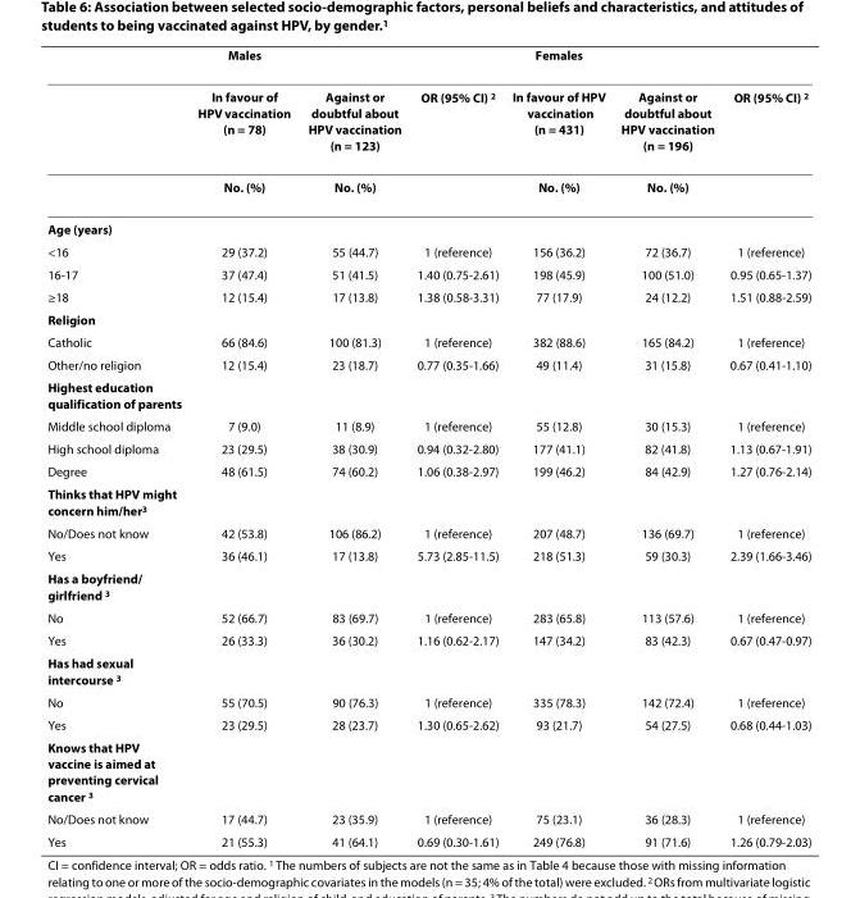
<table><thead><tr><td></td><td>Males</td><td></td><td></td><td>Females</td><td></td><td></td></tr></thead><tbody><tr><td></td><td>In favour of HPV vaccination (n = 78)</td><td>Against or doubtful about HPV vaccination (n = 123)</td><td>OR (95% CI) <sup>2</sup></td><td>In favour of HPV vaccination (n = 431)</td><td>Against or doubtful about HPV vaccination (n = 196)</td><td>OR (95% CI) <sup>2</sup></td></tr><tr><td></td><td>No. (%)</td><td>No. (%)</td><td></td><td>No. (%)</td><td>No. (%)</td><td></td></tr><tr><td colspan="7">Age (years)</td></tr><tr><td>&lt;16</td><td>29 (37.2)</td><td>55 (44.7)</td><td>1 (reference)</td><td>156 (36.2)</td><td>72 (36.7)</td><td>1 (reference)</td></tr><tr><td>16-17</td><td>37 (47.4)</td><td>51 (41.5)</td><td>1.40 (0.75-2.61)</td><td>198 (45.9)</td><td>100 (51.0)</td><td>0.95 (0.65-1.37)</td></tr><tr><td>≥18</td><td>12 (15.4)</td><td>17 (13.8)</td><td>1.38 (0.58-3.31)</td><td>77 (17.9)</td><td>24 (12.2)</td><td>1.51 (0.88-2.59)</td></tr><tr><td colspan="7">Religion</td></tr><tr><td>Catholic</td><td>66 (84.6)</td><td>100 (81.3)</td><td>1 (reference)</td><td>382 (88.6)</td><td>165 (84.2)</td><td>1 (reference)</td></tr><tr><td>Other/no religion</td><td>12 (15.4)</td><td>23 (18.7)</td><td>0.77 (0.35-1.66)</td><td>49 (11.4)</td><td>31 (15.8)</td><td>0.67 (0.41-1.10)</td></tr><tr><td colspan="7">Highest education qualification of parents</td></tr><tr><td>Middle school diploma</td><td>7 (9.0)</td><td>11 (8.9)</td><td>1 (reference)</td><td>55 (12.8)</td><td>30 (15.3)</td><td>1 (reference)</td></tr><tr><td>High school diploma</td><td>23 (29.5)</td><td>38 (30.9)</td><td>0.94 (0.32-2.80)</td><td>177 (41.1)</td><td>82 (41.8)</td><td>1.13 (0.67-1.91)</td></tr><tr><td>Degree</td><td>48 (61.5)</td><td>74 (60.2)</td><td>1.06 (0.38-2.97)</td><td>199 (46.2)</td><td>84 (42.9)</td><td>1.27 (0.76-2.14)</td></tr><tr><td colspan="7">Thinks that HPV might concern him/her<sup>3</sup></td></tr><tr><td>No/Does not know</td><td>42 (53.8)</td><td>106 (86.2)</td><td>1 (reference)</td><td>207 (48.7)</td><td>136 (69.7)</td><td>1 (reference)</td></tr><tr><td>Yes</td><td>36 (46.1)</td><td>17 (13.8)</td><td>5.73 (2.85-11.5)</td><td>218 (51.3)</td><td>59 (30.3)</td><td>2.39 (1.66-3.46)</td></tr><tr><td colspan="7">Has a boyfriend/ girlfriend <sup>3</sup></td></tr><tr><td>No</td><td>52 (66.7)</td><td>83 (69.7)</td><td>1 (reference)</td><td>283 (65.8)</td><td>113 (57.6)</td><td>1 (reference)</td></tr><tr><td>Yes</td><td>26 (33.3)</td><td>36 (30.2)</td><td>1.16 (0.62-2.17)</td><td>147 (34.2)</td><td>83 (42.3)</td><td>0.67 (0.47-0.97)</td></tr><tr><td colspan="7">Has had sexual intercourse <sup>3</sup></td></tr><tr><td>No</td><td>55 (70.5)</td><td>90 (76.3)</td><td>1 (reference)</td><td>335 (78.3)</td><td>142 (72.4)</td><td>1 (reference)</td></tr><tr><td>Yes</td><td>23 (29.5)</td><td>28 (23.7)</td><td>1.30 (0.65-2.62)</td><td>93 (21.7)</td><td>54 (27.5)</td><td>0.68 (0.44-1.03)</td></tr><tr><td colspan="7">Knows that HPV vaccine is aimed at preventing cervical cancer <sup>3</sup></td></tr><tr><td>No/Does not know</td><td>17 (44.7)</td><td>23 (35.9)</td><td>1 (reference)</td><td>75 (23.1)</td><td>36 (28.3)</td><td>1 (reference)</td></tr><tr><td>Yes</td><td>21 (55.3)</td><td>41 (64.1)</td><td>0.69 (0.30-1.61)</td><td>249 (76.8)</td><td>91 (71.6)</td><td>1.26 (0.79-2.03)</td></tr></tbody></table>